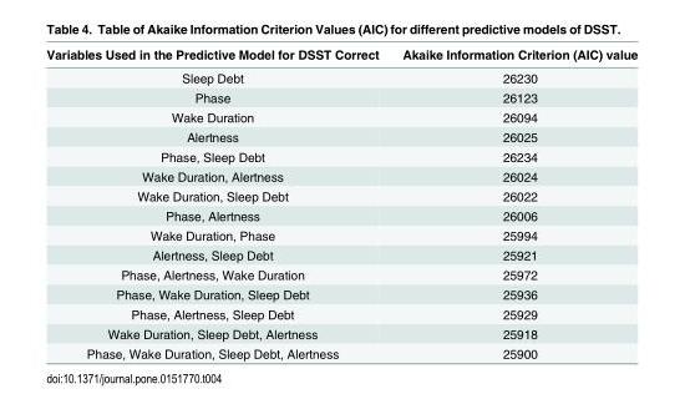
<table><thead><tr><td>Variables Used in the Predictive Model for DSST Correct</td><td>Akaike Information Criterion (AIC) value</td></tr></thead><tbody><tr><td>Sleep Debt</td><td>26230</td></tr><tr><td>Phase</td><td>26123</td></tr><tr><td>Wake Duration</td><td>26094</td></tr><tr><td>Alertness</td><td>26025</td></tr><tr><td>Phase, Sleep Debt</td><td>26234</td></tr><tr><td>Wake Duration, Alertness</td><td>26024</td></tr><tr><td>Wake Duration, Sleep Debt</td><td>26022</td></tr><tr><td>Phase, Alertness</td><td>26006</td></tr><tr><td>Wake Duration, Phase</td><td>25994</td></tr><tr><td>Alertness, Sleep Debt</td><td>25921</td></tr><tr><td>Phase, Alertness, Wake Duration</td><td>25972</td></tr><tr><td>Phase, Wake Duration, Sleep Debt</td><td>25936</td></tr><tr><td>Phase, Alertness, Sleep Debt</td><td>25929</td></tr><tr><td>Wake Duration, Sleep Debt, Alertness</td><td>25918</td></tr><tr><td>Phase, Wake Duration, Sleep Debt, Alertness</td><td>25900</td></tr></tbody></table>